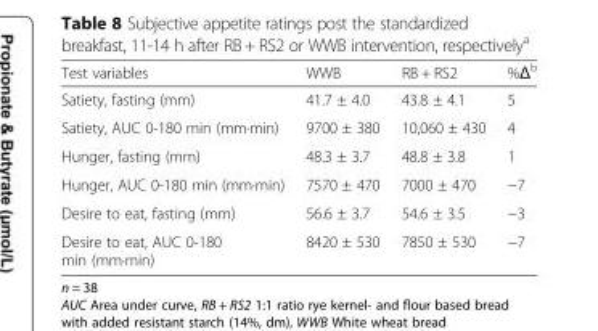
<table><thead><tr><td>Test variables</td><td>WWB</td><td>RB + RS2</td><td>%Δ<sup>b</sup></td></tr></thead><tbody><tr><td>Satiety, fasting (mm)</td><td>41.7 ± 4.0</td><td>43.8 ± 4.1</td><td>5</td></tr><tr><td>Satiety, AUC 0-180 min (mm·min)</td><td>9700 ± 380</td><td>10,060 ± 430</td><td>4</td></tr><tr><td>Hunger, fasting (mm)</td><td>48.3 ± 3.7</td><td>48.8 ± 3.8</td><td>1</td></tr><tr><td>Hunger, AUC 0-180 min (mm·min)</td><td>7570 ± 470</td><td>7000 ± 470</td><td>−7</td></tr><tr><td>Desire to eat, fasting (mm)</td><td>56.6 ± 3.7</td><td>54.6 ± 3.5</td><td>−3</td></tr><tr><td>Desire to eat, AUC 0-180 min (mm·min)</td><td>8420 ± 530</td><td>7850 ± 530</td><td>−7</td></tr></tbody></table>